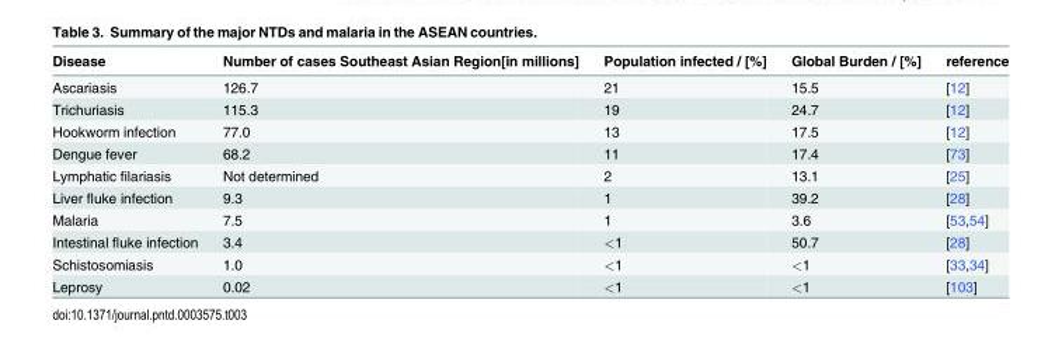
<table><thead><tr><td>Disease</td><td>Number of cases Southeast Asian Region[in millions]</td><td>Population infected / [%]</td><td>Global Burden / [%]</td><td>reference</td></tr></thead><tbody><tr><td>Ascariasis</td><td>126.7</td><td>21</td><td>15.5</td><td>[12]</td></tr><tr><td>Trichuriasis</td><td>115.3</td><td>19</td><td>24.7</td><td>[12]</td></tr><tr><td>Hookworm infection</td><td>77.0</td><td>13</td><td>17.5</td><td>[12]</td></tr><tr><td>Dengue fever</td><td>68.2</td><td>11</td><td>17.4</td><td>[73]</td></tr><tr><td>Lymphatic filariasis</td><td>Not determined</td><td>2</td><td>13.1</td><td>[25]</td></tr><tr><td>Liver fluke infection</td><td>9.3</td><td>1</td><td>39.2</td><td>[28]</td></tr><tr><td>Malaria</td><td>7.5</td><td>1</td><td>3.6</td><td>[53,54]</td></tr><tr><td>Intestinal fluke infection</td><td>3.4</td><td>&lt;1</td><td>50.7</td><td>[28]</td></tr><tr><td>Schistosomiasis</td><td>1.0</td><td>&lt;1</td><td>&lt;1</td><td>[33,34]</td></tr><tr><td>Leprosy</td><td>0.02</td><td>&lt;1</td><td>&lt;1</td><td>[103]</td></tr></tbody></table>